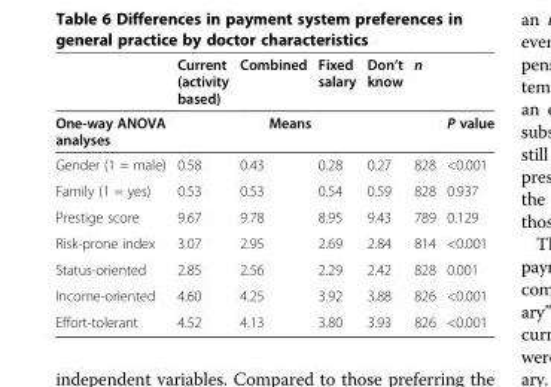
<table><thead><tr><td rowspan="2">One-way ANOVA analyses</td><td>Current (activity based)</td><td>Combined</td><td>Fixed salary</td><td>Don’t know</td><td rowspan="2">n</td><td rowspan="2">P value</td></tr><tr><td colspan="4">Means</td></tr></thead><tbody><tr><td>Gender (1 = male)</td><td>0.58</td><td>0.43</td><td>0.28</td><td>0.27</td><td>828</td><td>&lt;0.001</td></tr><tr><td>Family (1 = yes)</td><td>0.53</td><td>0.53</td><td>0.54</td><td>0.59</td><td>828</td><td>0.937</td></tr><tr><td>Prestige score</td><td>9.67</td><td>9.78</td><td>8.95</td><td>9.43</td><td>789</td><td>0.129</td></tr><tr><td>Risk-prone index</td><td>3.07</td><td>2.95</td><td>2.69</td><td>2.84</td><td>814</td><td>&lt;0.001</td></tr><tr><td>Status-oriented</td><td>2.85</td><td>2.56</td><td>2.29</td><td>2.42</td><td>828</td><td>0.001</td></tr><tr><td>Income-oriented</td><td>4.60</td><td>4.25</td><td>3.92</td><td>3.88</td><td>826</td><td>&lt;0.001</td></tr><tr><td>Effort-tolerant</td><td>4.52</td><td>4.13</td><td>3.80</td><td>3.93</td><td>826</td><td>&lt;0.001</td></tr></tbody></table>